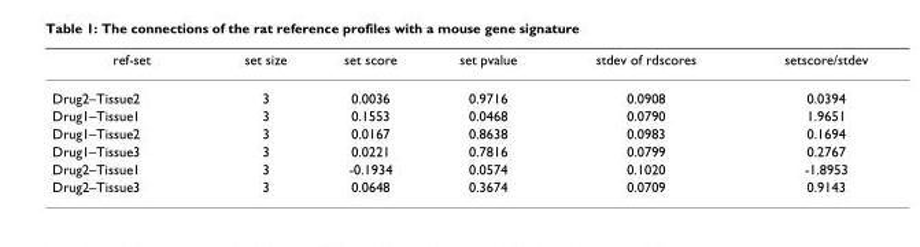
<table><thead><tr><td>ref-set</td><td>set size</td><td>set score</td><td>set pvalue</td><td>stdev of rdscores</td><td>setscore/stdev</td></tr></thead><tbody><tr><td>Drug2–Tissue2</td><td>3</td><td>0.0036</td><td>0.9716</td><td>0.0908</td><td>0.0394</td></tr><tr><td>Drug1–Tissue1</td><td>3</td><td>0.1553</td><td>0.0468</td><td>0.0790</td><td>1.9651</td></tr><tr><td>Drug1–Tissue2</td><td>3</td><td>0.0167</td><td>0.8638</td><td>0.0983</td><td>0.1694</td></tr><tr><td>Drug1–Tissue3</td><td>3</td><td>0.0221</td><td>0.7816</td><td>0.0799</td><td>0.2767</td></tr><tr><td>Drug2–Tissue1</td><td>3</td><td>-0.1934</td><td>0.0574</td><td>0.1020</td><td>-1.8953</td></tr><tr><td>Drug2–Tissue3</td><td>3</td><td>0.0648</td><td>0.3674</td><td>0.0709</td><td>0.9143</td></tr></tbody></table>